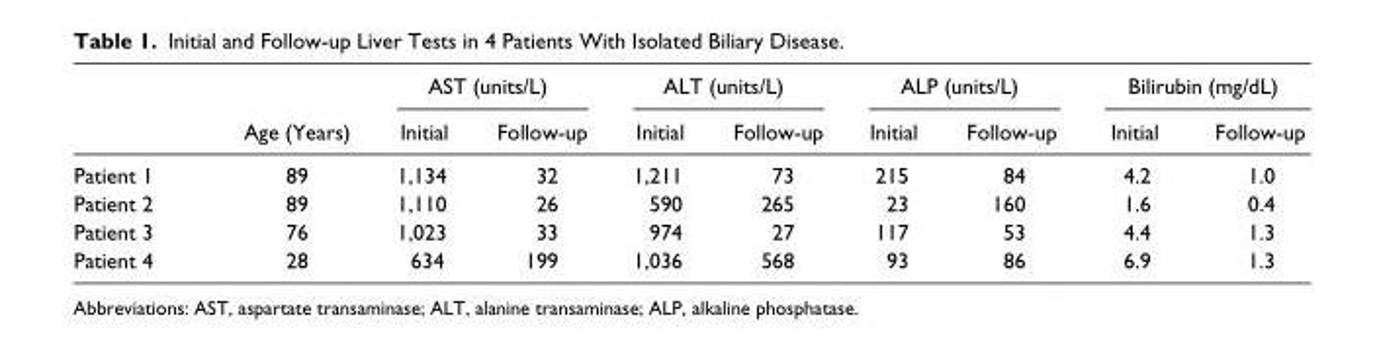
<table><thead><tr><td rowspan="2"></td><td rowspan="2">Age (Years)</td><td colspan="2">AST (units/L)</td><td colspan="2">ALT (units/L)</td><td colspan="2">ALP (units/L)</td><td colspan="2">Bilirubin (mg/dL)</td></tr><tr><td>Initial</td><td>Follow-up</td><td>Initial</td><td>Follow-up</td><td>Initial</td><td>Follow-up</td><td>Initial</td><td>Follow-up</td></tr></thead><tbody><tr><td>Patient 1</td><td>89</td><td>1,134</td><td>32</td><td>1,211</td><td>73</td><td>215</td><td>84</td><td>4.2</td><td>1.0</td></tr><tr><td>Patient 2</td><td>89</td><td>1,110</td><td>26</td><td>590</td><td>265</td><td>23</td><td>160</td><td>1.6</td><td>0.4</td></tr><tr><td>Patient 3</td><td>76</td><td>1,023</td><td>33</td><td>974</td><td>27</td><td>117</td><td>53</td><td>4.4</td><td>1.3</td></tr><tr><td>Patient 4</td><td>28</td><td>634</td><td>199</td><td>1,036</td><td>568</td><td>93</td><td>86</td><td>6.9</td><td>1.3</td></tr></tbody></table>